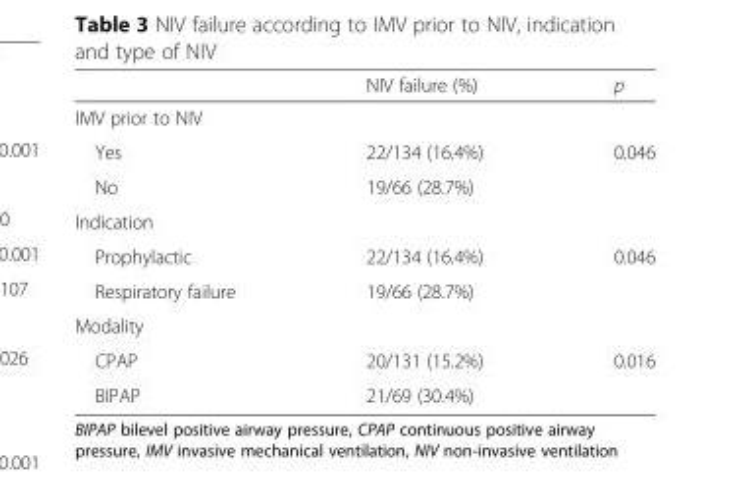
<table><thead><tr><td></td><td>NIV failure (%)</td><td>p</td></tr></thead><tbody><tr><td colspan="3">IMV prior to NIV</td></tr><tr><td>Yes</td><td>22/134 (16.4%)</td><td rowspan="2">0.046</td></tr><tr><td>No</td><td>19/66 (28.7%)</td></tr><tr><td colspan="3">Indication</td></tr><tr><td>Prophylactic</td><td>22/134 (16.4%)</td><td rowspan="2">0.046</td></tr><tr><td>Respiratory failure</td><td>19/66 (28.7%)</td></tr><tr><td colspan="3">Modality</td></tr><tr><td>CPAP</td><td>20/131 (15.2%)</td><td rowspan="2">0.016</td></tr><tr><td>BIPAP</td><td>21/69 (30.4%)</td></tr></tbody></table>